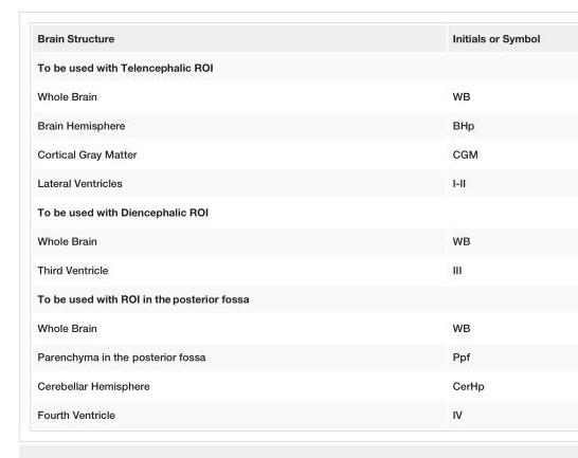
<table><tbody><tr><td>Brain Structure</td><td>Initials or Symbol</td></tr><tr><td colspan="2">To be used with Telencephalic ROI</td></tr><tr><td>Whole Brain</td><td>WB</td></tr><tr><td>Brain Hemisphere</td><td>BHp</td></tr><tr><td>Cortical Gray Matter</td><td>CGM</td></tr><tr><td>Lateral Ventricles</td><td>I-II</td></tr><tr><td colspan="2">To be used with Diencephalic ROI</td></tr><tr><td>Whole Brain</td><td>WB</td></tr><tr><td>Third Ventricle</td><td>III</td></tr><tr><td colspan="2">To be used with ROI in the posterior fossa</td></tr><tr><td>Whole Brain</td><td>WB</td></tr><tr><td>Parenchyma in the posterior fossa</td><td>Ppf</td></tr><tr><td>Cerebellar Hemisphere</td><td>CerHp</td></tr><tr><td>Fourth Ventricle</td><td>IV</td></tr></tbody></table>